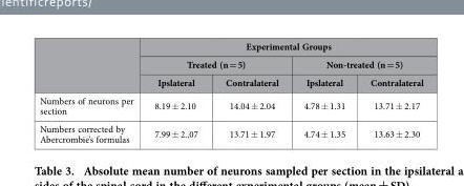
<table><thead><tr><td rowspan="3"></td><td colspan="4">Experimental Groups</td></tr><tr><td colspan="2">Treated (n = 5)</td><td colspan="2">Non-treated (n = 5)</td></tr><tr><td>Ipslateral</td><td>Contralateral</td><td>Ipslateral</td><td>Contralateral</td></tr></thead><tbody><tr><td>Numbers of neurons per section</td><td>8.19 ± 2.10</td><td>14.04 ± 2.04</td><td>4.78 ± 1.31</td><td>13.71 ± 2.17</td></tr><tr><td>Numbers corrected by Abercrombie’s formulas</td><td>7.99 ± 2.,07</td><td>13.71 ± 1.97</td><td>4.74 ± 1.35</td><td>13.63 ± 2.30</td></tr></tbody></table>